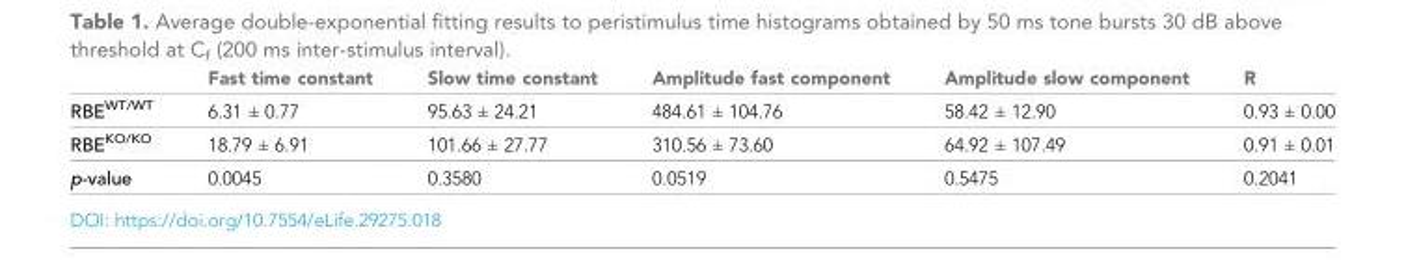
<table><thead><tr><td></td><td>Fast time constant</td><td>Slow time constant</td><td>Amplitude fast component</td><td>Amplitude slow component</td><td>R</td></tr></thead><tbody><tr><td>RBE<sup>WT/WT</sup></td><td>6.31 ± 0.77</td><td>95.63 ± 24.21</td><td>484.61 ± 104.76</td><td>58.42 ± 12.90</td><td>0.93 ± 0.00</td></tr><tr><td>RBE<sup>KO/KO</sup></td><td>18.79 ± 6.91</td><td>101.66 ± 27.77</td><td>310.56 ± 73.60</td><td>64.92 ± 107.49</td><td>0.91 ± 0.01</td></tr><tr><td>p-value</td><td>0.0045</td><td>0.3580</td><td>0.0519</td><td>0.5475</td><td>0.2041</td></tr></tbody></table>